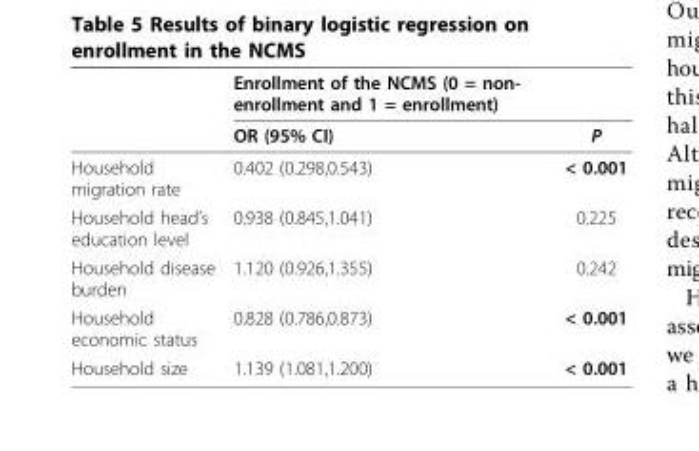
<table><thead><tr><td></td><td>Enrollment of the NCMS (0 = non- enrollment and 1 = enrollment)</td><td></td></tr></thead><tbody><tr><td></td><td>OR (95% CI)</td><td>P</td></tr><tr><td>Household migration rate</td><td>0.402 (0.298,0.543)</td><td>&lt; 0.001</td></tr><tr><td>Household head’s education level</td><td>0.938 (0.845,1.041)</td><td>0.225</td></tr><tr><td>Household disease burden</td><td>1.120 (0.926,1.355)</td><td>0.242</td></tr><tr><td>Household economic status</td><td>0.828 (0.786,0.873)</td><td>&lt; 0.001</td></tr><tr><td>Household size</td><td>1.139 (1.081,1.200)</td><td>&lt; 0.001</td></tr></tbody></table>